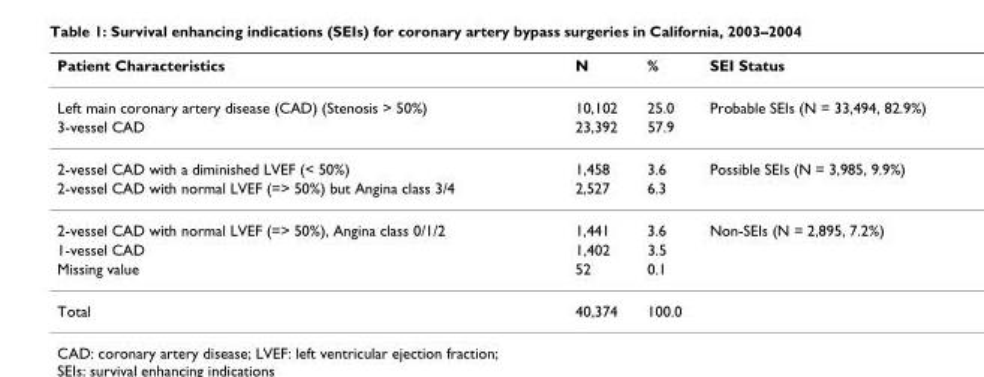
<table><thead><tr><td>Patient Characteristics</td><td>N</td><td>%</td><td>SEI Status</td></tr></thead><tbody><tr><td>Left main coronary artery disease (CAD) (Stenosis &gt; 50%)</td><td>10,102</td><td>25.0</td><td>Probable SEIs (N = 33,494, 82.9%)</td></tr><tr><td>3-vessel CAD</td><td>23,392</td><td>57.9</td><td></td></tr><tr><td>2-vessel CAD with a diminished LVEF (&lt; 50%)</td><td>1,458</td><td>3.6</td><td>Possible SEIs (N = 3,985, 9.9%)</td></tr><tr><td>2-vessel CAD with normal LVEF (=&gt; 50%) but Angina class 3/4</td><td>2,527</td><td>6.3</td><td></td></tr><tr><td>2-vessel CAD with normal LVEF (=&gt; 50%), Angina class 0/1/2</td><td>1,441</td><td>3.6</td><td>Non-SEIs (N = 2,895, 7.2%)</td></tr><tr><td>1-vessel CAD</td><td>1,402</td><td>3.5</td><td></td></tr><tr><td>Missing value</td><td>52</td><td>0.1</td><td></td></tr><tr><td>Total</td><td>40,374</td><td>100.0</td><td></td></tr></tbody></table>